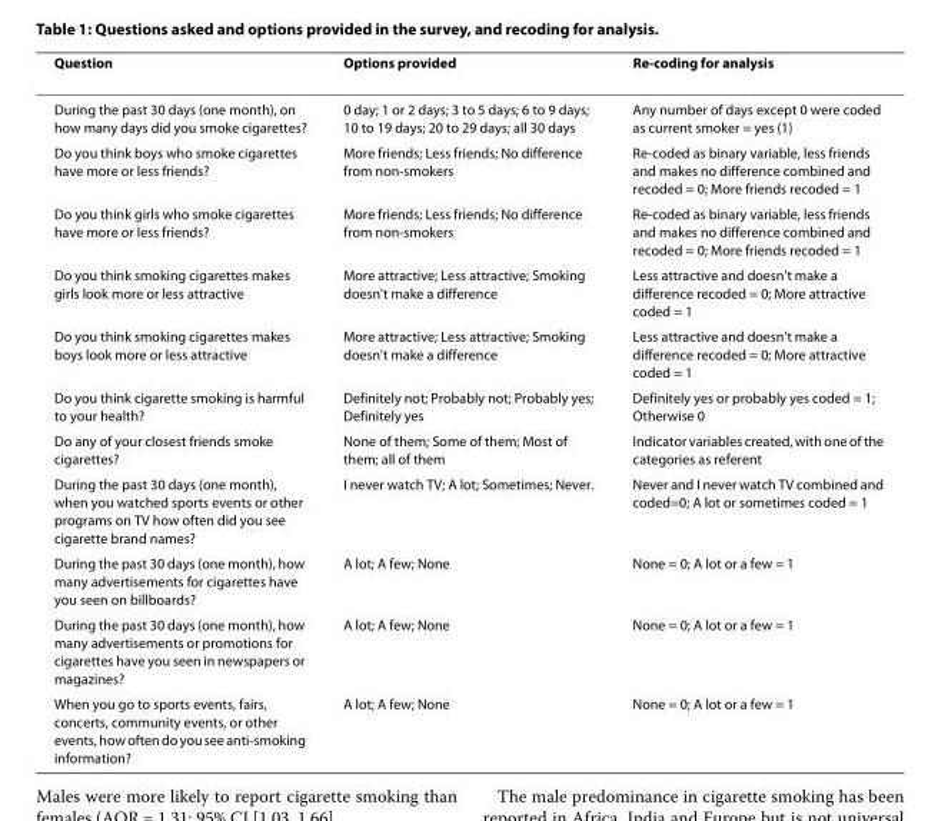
<table><thead><tr><td>Question</td><td>Options provided</td><td>Re-coding for analysis</td></tr></thead><tbody><tr><td>During the past 30 days (one month), on how many days did you smoke cigarettes?</td><td>0 day; 1 or 2 days; 3 to 5 days; 6 to 9 days; 10 to 19 days; 20 to 29 days; all 30 days</td><td>Any number of days except 0 were coded as current smoker = yes (1)</td></tr><tr><td>Do you think boys who smoke cigarettes have more or less friends?</td><td>More friends; Less friends; No difference from non-smokers</td><td>Re-coded as binary variable, less friends and makes no difference combined and recoded = 0; More friends recoded = 1</td></tr><tr><td>Do you think girls who smoke cigarettes have more or less friends?</td><td>More friends; Less friends; No difference from non-smokers</td><td>Re-coded as binary variable, less friends and makes no difference combined and recoded = 0; More friends recoded = 1</td></tr><tr><td>Do you think smoking cigarettes makes girls look more or less attractive</td><td>More attractive; Less attractive; Smoking doesn&#x27;t make a difference</td><td>Less attractive and doesn&#x27;t make a difference recoded = 0; More attractive coded = 1</td></tr><tr><td>Do you think smoking cigarettes makes boys look more or less attractive</td><td>More attractive; Less attractive; Smoking doesn&#x27;t make a difference</td><td>Less attractive and doesn&#x27;t make a difference recoded = 0; More attractive coded = 1</td></tr><tr><td>Do you think cigarette smoking is harmful to your health?</td><td>Definitely not; Probably not; Probably yes; Definitely yes</td><td>Definitely yes or probably yes coded = 1; Otherwise 0</td></tr><tr><td>Do any of your closest friends smoke cigarettes?</td><td>None of them; Some of them; Most of them; all of them</td><td>Indicator variables created, with one of the categories as referent</td></tr><tr><td>During the past 30 days (one month), when you watched sports events or other programs on TV how often did you see cigarette brand names?</td><td>I never watch TV; A lot; Sometimes; Never.</td><td>Never and I never watch TV combined and coded=0; A lot or sometimes coded = 1</td></tr><tr><td>During the past 30 days (one month), how many advertisements for cigarettes have you seen on billboards?</td><td>A lot; A few; None</td><td>None = 0; A lot or a few = 1</td></tr><tr><td>During the past 30 days (one month), how many advertisements or promotions for cigarettes have you seen in newspapers or magazines?</td><td>A lot; A few; None</td><td>None = 0; A lot or a few = 1</td></tr><tr><td>When you go to sports events, fairs, concerts, community events, or other events, how often do you see anti-smoking information?</td><td>A lot; A few; None</td><td>None = 0; A lot or a few = 1</td></tr></tbody></table>